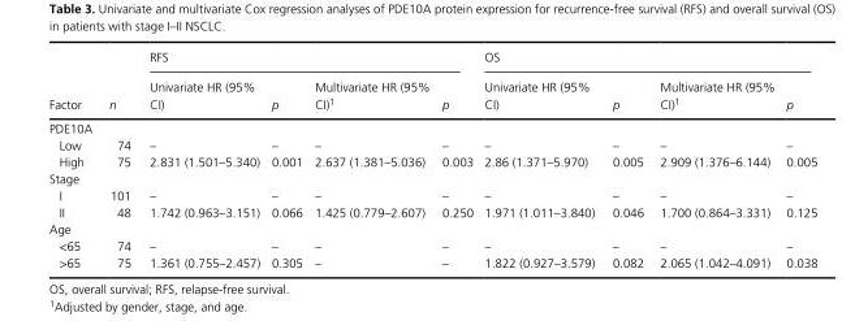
<table><thead><tr><td rowspan="2">Factor</td><td rowspan="2">n</td><td colspan="4">RFS</td><td colspan="4">OS</td></tr><tr><td>Univariate HR (95% CI)</td><td>p</td><td>Multivariate HR (95% CI)1</td><td>p</td><td>Univariate HR (95% CI)</td><td>p</td><td>Multivariate HR (95% CI)1</td><td>p</td></tr></thead><tbody><tr><td colspan="10">PDE10A</td></tr><tr><td>Low</td><td>74</td><td>–</td><td>–</td><td>–</td><td>–</td><td>–</td><td>–</td><td>–</td><td>–</td></tr><tr><td>High</td><td>75</td><td>2.831 (1.501–5.340)</td><td>0.001</td><td>2.637 (1.381–5.036)</td><td>0.003</td><td>2.86 (1.371–5.970)</td><td>0.005</td><td>2.909 (1.376–6.144)</td><td>0.005</td></tr><tr><td colspan="10">Stage</td></tr><tr><td>I</td><td>101</td><td>–</td><td>–</td><td>–</td><td>–</td><td>–</td><td>–</td><td>–</td><td>–</td></tr><tr><td>II</td><td>48</td><td>1.742 (0.963–3.151)</td><td>0.066</td><td>1.425 (0.779–2.607)</td><td>0.250</td><td>1.971 (1.011–3.840)</td><td>0.046</td><td>1.700 (0.864–3.331)</td><td>0.125</td></tr><tr><td colspan="10">Age</td></tr><tr><td>&lt;65</td><td>74</td><td>–</td><td>–</td><td>–</td><td>–</td><td>–</td><td>–</td><td>–</td><td>–</td></tr><tr><td>&gt;65</td><td>75</td><td>1.361 (0.755–2.457)</td><td>0.305</td><td>–</td><td>–</td><td>1.822 (0.927–3.579)</td><td>0.082</td><td>2.065 (1.042–4.091)</td><td>0.038</td></tr></tbody></table>